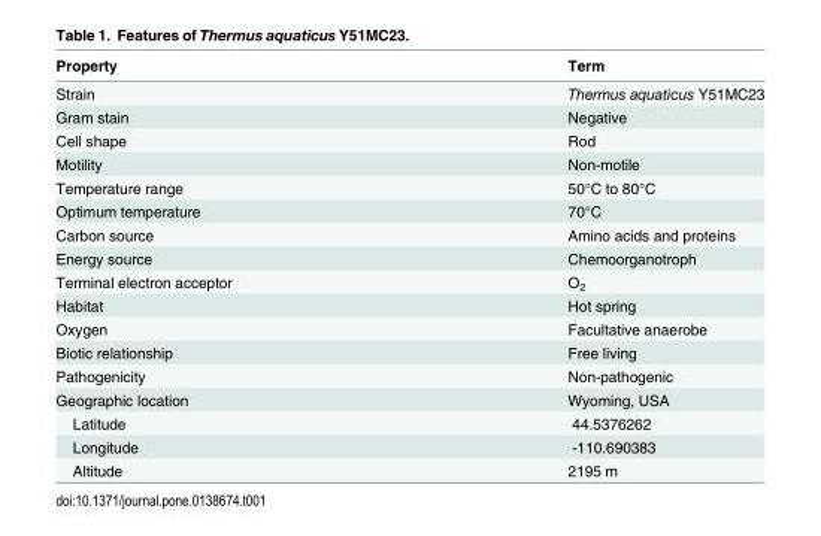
<table><thead><tr><td>Property</td><td>Term</td></tr></thead><tbody><tr><td>Strain</td><td>Thermus aquaticus Y51MC23</td></tr><tr><td>Gram stain</td><td>Negative</td></tr><tr><td>Cell shape</td><td>Rod</td></tr><tr><td>Motility</td><td>Non-motile</td></tr><tr><td>Temperature range</td><td>50°C to 80°C</td></tr><tr><td>Optimum temperature</td><td>70°C</td></tr><tr><td>Carbon source</td><td>Amino acids and proteins</td></tr><tr><td>Energy source</td><td>Chemoorganotroph</td></tr><tr><td>Terminal electron acceptor</td><td>O<sub>2</sub></td></tr><tr><td>Habitat</td><td>Hot spring</td></tr><tr><td>Oxygen</td><td>Facultative anaerobe</td></tr><tr><td>Biotic relationship</td><td>Free living</td></tr><tr><td>Pathogenicity</td><td>Non-pathogenic</td></tr><tr><td>Geographic location</td><td>Wyoming, USA</td></tr><tr><td>Latitude</td><td>44.5376262</td></tr><tr><td>Longitude</td><td>-110.690383</td></tr><tr><td>Altitude</td><td>2195 m</td></tr></tbody></table>